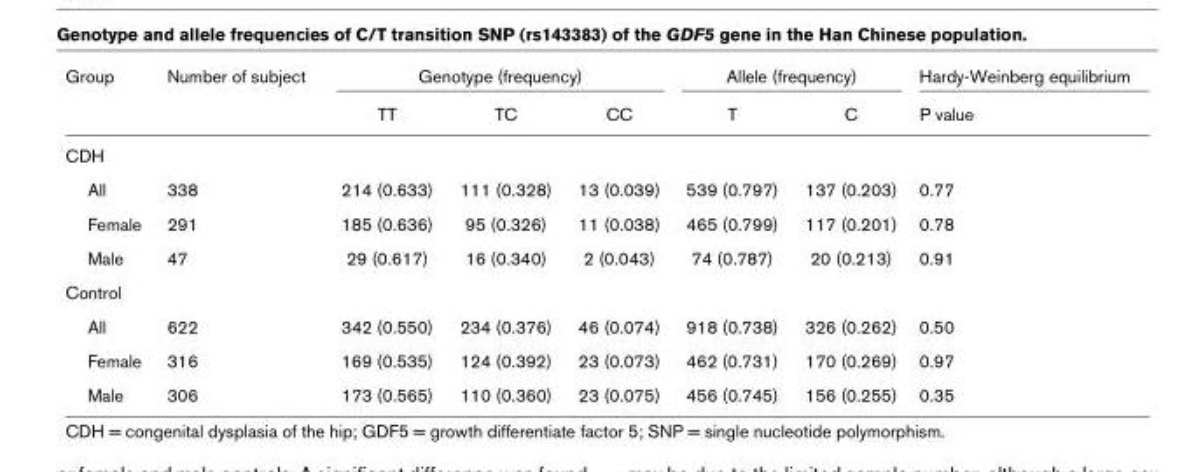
<table><thead><tr><td rowspan="2">Group</td><td rowspan="2">Number of subject</td><td colspan="3">Genotype (frequency)</td><td colspan="2">Allele (frequency)</td><td rowspan="2">Hardy-Weinberg equilibrium P value</td></tr><tr><td>TT</td><td>TC</td><td>CC</td><td>T</td><td>C</td></tr></thead><tbody><tr><td colspan="8">CDH</td></tr><tr><td>All</td><td>338</td><td>214 (0.633)</td><td>111 (0.328)</td><td>13 (0.039)</td><td>539 (0.797)</td><td>137 (0.203)</td><td>0.77</td></tr><tr><td>Female</td><td>291</td><td>185 (0.636)</td><td>95 (0.326)</td><td>11 (0.038)</td><td>465 (0.799)</td><td>117 (0.201)</td><td>0.78</td></tr><tr><td>Male</td><td>47</td><td>29 (0.617)</td><td>16 (0.340)</td><td>2 (0.043)</td><td>74 (0.787)</td><td>20 (0.213)</td><td>0.91</td></tr><tr><td colspan="8">Control</td></tr><tr><td>All</td><td>622</td><td>342 (0.550)</td><td>234 (0.376)</td><td>46 (0.074)</td><td>918 (0.738)</td><td>326 (0.262)</td><td>0.50</td></tr><tr><td>Female</td><td>316</td><td>169 (0.535)</td><td>124 (0.392)</td><td>23 (0.073)</td><td>462 (0.731)</td><td>170 (0.269)</td><td>0.97</td></tr><tr><td>Male</td><td>306</td><td>173 (0.565)</td><td>110 (0.360)</td><td>23 (0.075)</td><td>456 (0.745)</td><td>156 (0.255)</td><td>0.35</td></tr></tbody></table>